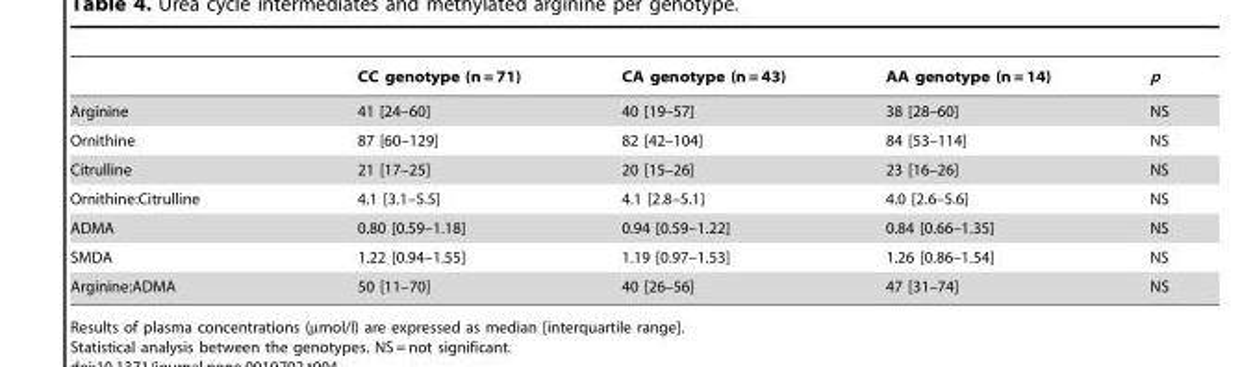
<table><thead><tr><td></td><td>CC genotype (n = 71)</td><td>CA genotype (n = 43)</td><td>AA genotype (n = 14)</td><td>p</td></tr></thead><tbody><tr><td>Arginine</td><td>41 [24–60]</td><td>40 [19–57]</td><td>38 [28–60]</td><td>NS</td></tr><tr><td>Ornithine</td><td>87 [60–129]</td><td>82 [42–104]</td><td>84 [53–114]</td><td>NS</td></tr><tr><td>Citrulline</td><td>21 [17–25]</td><td>20 [15–26]</td><td>23 [16–26]</td><td>NS</td></tr><tr><td>Ornithine:Citrulline</td><td>4.1 [3.1–5.5]</td><td>4.1 [2.8–5.1]</td><td>4.0 [2.6–5.6]</td><td>NS</td></tr><tr><td>ADMA</td><td>0.80 [0.59–1.18]</td><td>0.94 [0.59–1.22]</td><td>0.84 [0.66–1.35]</td><td>NS</td></tr><tr><td>SMDA</td><td>1.22 [0.94–1.55]</td><td>1.19 [0.97–1.53]</td><td>1.26 [0.86–1.54]</td><td>NS</td></tr><tr><td>Arginine:ADMA</td><td>50 [11–70]</td><td>40 [26–56]</td><td>47 [31–74]</td><td>NS</td></tr></tbody></table>